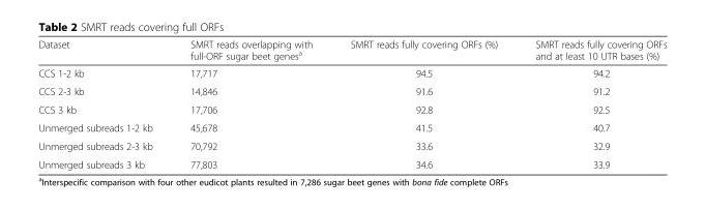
<table><thead><tr><td>Dataset</td><td>SMRT reads overlapping with full-ORF sugar beet genes<sup>a</sup></td><td>SMRT reads fully covering ORFs (%)</td><td>SMRT reads fully covering ORFs and at least 10 UTR bases (%)</td></tr></thead><tbody><tr><td>CCS 1-2 kb</td><td>17,717</td><td>94.5</td><td>94.2</td></tr><tr><td>CCS 2-3 kb</td><td>14,846</td><td>91.6</td><td>91.2</td></tr><tr><td>CCS 3 kb</td><td>17,706</td><td>92.8</td><td>92.5</td></tr><tr><td>Unmerged subreads 1-2 kb</td><td>45,678</td><td>41.5</td><td>40.7</td></tr><tr><td>Unmerged subreads 2-3 kb</td><td>70,792</td><td>33.6</td><td>32.9</td></tr><tr><td>Unmerged subreads 3 kb</td><td>77,803</td><td>34.6</td><td>33.9</td></tr></tbody></table>